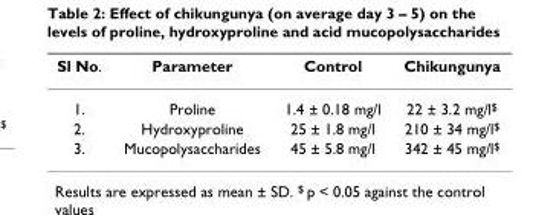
<table><thead><tr><td>Sl No.</td><td>Parameter</td><td>Control</td><td>Chikungunya</td></tr></thead><tbody><tr><td>1.</td><td>Proline</td><td>1.4 ± 0.18 mg/l</td><td>22 ± 3.2 mg/l<sup>$</sup></td></tr><tr><td>2.</td><td>Hydroxyproline</td><td>25 ± 1.8 mg/l</td><td>210 ± 34 mg/l<sup>$</sup></td></tr><tr><td>3.</td><td>Mucopolysaccharides</td><td>45 ± 5.8 mg/l</td><td>342 ± 45 mg/l<sup>$</sup></td></tr></tbody></table>